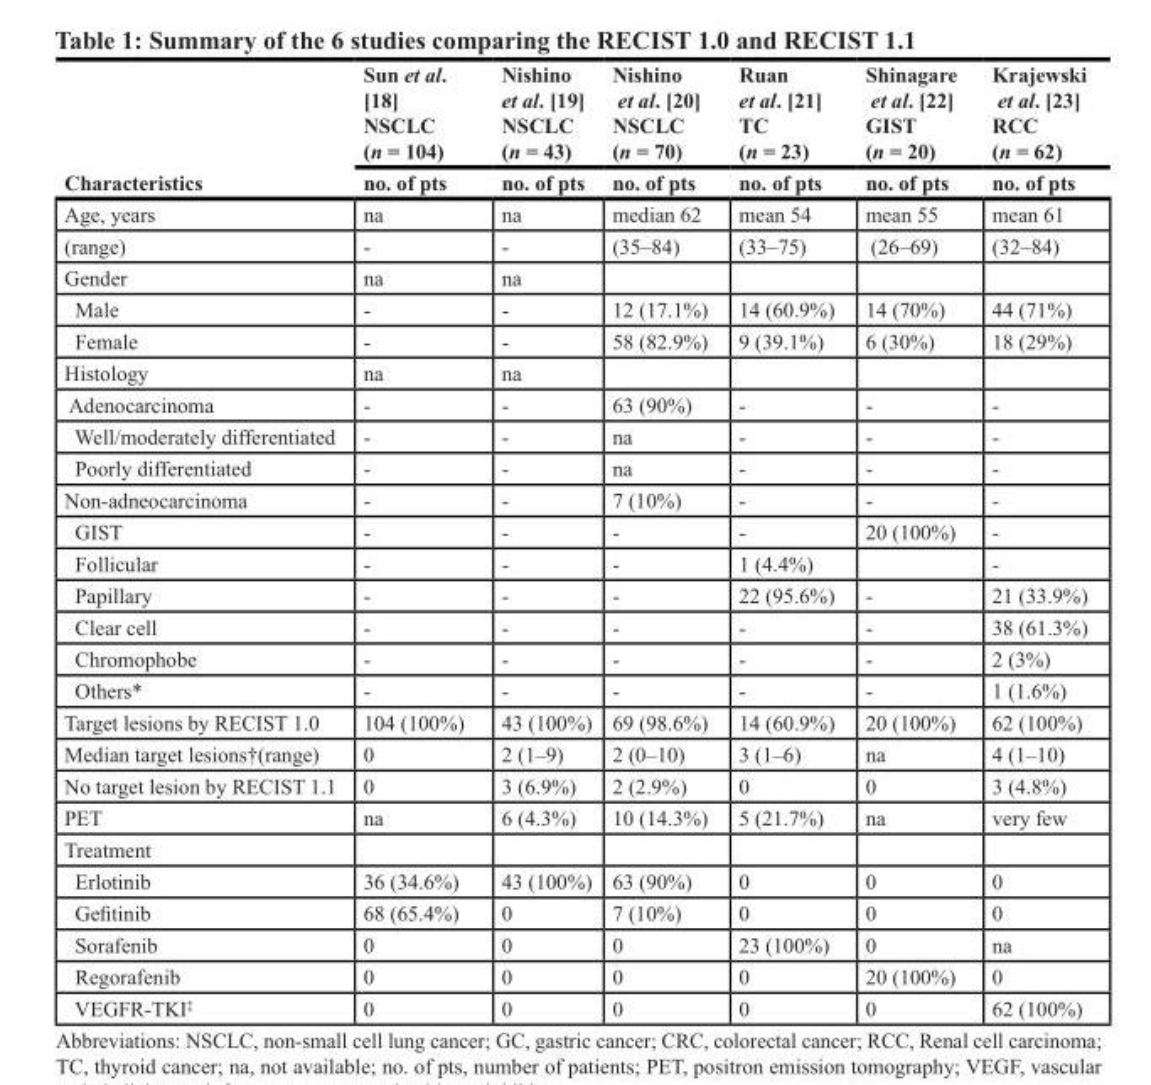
<table><thead><tr><td rowspan="2">Characteristics</td><td rowspan="2">Sun et al. [18] NSCLC (n = 104) no. of pts</td><td rowspan="2">Nishino et al. [19] NSCLC (n = 43) no. of pts</td><td rowspan="2">Nishino et al. [20] NSCLC (n = 70) no. of pts</td><td rowspan="2">Ruan et al. [21] TC (n = 23) no. of pts</td><td rowspan="2">Shinagare et al. [22] GIST (n = 20) no. of pts</td><td rowspan="2">Krajewski et al. [23] RCC (n = 62) no. of pts</td></tr><tr></tr></thead><tbody><tr><td>Age, years</td><td>na</td><td>na</td><td>median 62</td><td>mean 54</td><td>mean 55</td><td>mean 61</td></tr><tr><td>(range)</td><td>-</td><td>-</td><td>(35–84)</td><td>(33–75)</td><td>(26–69)</td><td>(32–84)</td></tr><tr><td>Gender</td><td>na</td><td>na</td><td></td><td></td><td></td><td></td></tr><tr><td>Male</td><td>-</td><td>-</td><td>12 (17.1%)</td><td>14 (60.9%)</td><td>14 (70%)</td><td>44 (71%)</td></tr><tr><td>Female</td><td>-</td><td>-</td><td>58 (82.9%)</td><td>9 (39.1%)</td><td>6 (30%)</td><td>18 (29%)</td></tr><tr><td>Histology</td><td>na</td><td>na</td><td></td><td></td><td></td><td></td></tr><tr><td>Adenocarcinoma</td><td>-</td><td>-</td><td>63 (90%)</td><td>-</td><td>-</td><td>-</td></tr><tr><td>Well/moderately differentiated</td><td>-</td><td>-</td><td>na</td><td>-</td><td>-</td><td>-</td></tr><tr><td>Poorly differentiated</td><td>-</td><td>-</td><td>na</td><td>-</td><td>-</td><td>-</td></tr><tr><td>Non-adneocarcinoma</td><td>-</td><td>-</td><td>7 (10%)</td><td>-</td><td>-</td><td>-</td></tr><tr><td>GIST</td><td>-</td><td>-</td><td>-</td><td>-</td><td>20 (100%)</td><td>-</td></tr><tr><td>Follicular</td><td>-</td><td>-</td><td>-</td><td>1 (4.4%)</td><td></td><td>-</td></tr><tr><td>Papillary</td><td>-</td><td>-</td><td>-</td><td>22 (95.6%)</td><td>-</td><td>21 (33.9%)</td></tr><tr><td>Clear cell</td><td>-</td><td>-</td><td>-</td><td>-</td><td>-</td><td>38 (61.3%)</td></tr><tr><td>Chromophobe</td><td>-</td><td>-</td><td>-</td><td>-</td><td>-</td><td>2 (3%)</td></tr><tr><td>Others*</td><td>-</td><td>-</td><td>-</td><td>-</td><td>-</td><td>1 (1.6%)</td></tr><tr><td>Target lesions by RECIST 1.0</td><td>104 (100%)</td><td>43 (100%)</td><td>69 (98.6%)</td><td>14 (60.9%)</td><td>20 (100%)</td><td>62 (100%)</td></tr><tr><td>Median target lesions†(range)</td><td>0</td><td>2 (1–9)</td><td>2 (0–10)</td><td>3 (1–6)</td><td>na</td><td>4 (1–10)</td></tr><tr><td>No target lesion by RECIST 1.1</td><td>0</td><td>3 (6.9%)</td><td>2 (2.9%)</td><td>0</td><td>0</td><td>3 (4.8%)</td></tr><tr><td>PET</td><td>na</td><td>6 (4.3%)</td><td>10 (14.3%)</td><td>5 (21.7%)</td><td>na</td><td>very few</td></tr><tr><td colspan="7">Treatment</td></tr><tr><td>Erlotinib</td><td>36 (34.6%)</td><td>43 (100%)</td><td>63 (90%)</td><td>0</td><td>0</td><td>0</td></tr><tr><td>Gefitinib</td><td>68 (65.4%)</td><td>0</td><td>7 (10%)</td><td>0</td><td>0</td><td>0</td></tr><tr><td>Sorafenib</td><td>0</td><td>0</td><td>0</td><td>23 (100%)</td><td>0</td><td>na</td></tr><tr><td>Regorafenib</td><td>0</td><td>0</td><td>0</td><td>0</td><td>20 (100%)</td><td>0</td></tr><tr><td>VEGFR-TKI<sup>‡</sup></td><td>0</td><td>0</td><td>0</td><td>0</td><td>0</td><td>62 (100%)</td></tr></tbody></table>